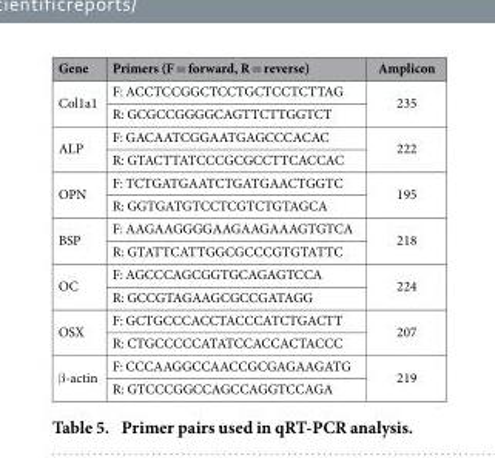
<table><thead><tr><td>Gene</td><td>Primers (F = forward, R = reverse)</td><td>Amplicon</td></tr></thead><tbody><tr><td rowspan="2">Col1a1</td><td>F: ACCTCCGGCTCCTGCTCCTCTTAG</td><td rowspan="2">235</td></tr><tr><td>R: GCGCCGGGGCAGTTCTTGGTCT</td></tr><tr><td rowspan="2">ALP</td><td>F: GACAATCGGAATGAGCCCACAC</td><td rowspan="2">222</td></tr><tr><td>R: GTACTTATCCCGCGCCTTCACCAC</td></tr><tr><td rowspan="2">OPN</td><td>F: TCTGATGAATCTGATGAACTGGTC</td><td rowspan="2">195</td></tr><tr><td>R: GGTGATGTCCTCGTCTGTAGCA</td></tr><tr><td rowspan="2">BSP</td><td>F: AAGAAGGGGAAGAAGAAAGTGTCA</td><td rowspan="2">218</td></tr><tr><td>R: GTATTCATTGGCGCCCGTGTATTC</td></tr><tr><td rowspan="2">OC</td><td>F: AGCCCAGCGGTGCAGAGTCCA</td><td rowspan="2">224</td></tr><tr><td>R: GCCGTAGAAGCGCCGATAGG</td></tr><tr><td rowspan="2">OSX</td><td>F: GCTGCCCACCTACCCATCTGACTT</td><td rowspan="2">207</td></tr><tr><td>R: CTGCCCCCATATCCACCACTACCC</td></tr><tr><td rowspan="2">β -actin</td><td>F: CCCAAGGCCAACCGCGAGAAGATG</td><td rowspan="2">219</td></tr><tr><td>R: GTCCCGGCCAGCCAGGTCCAGA</td></tr></tbody></table>